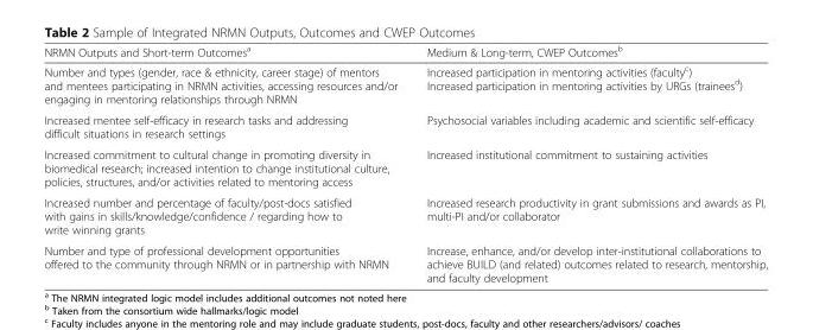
<table><thead><tr><td>NRMN Outputs and Short-term Outcomes<sup>a</sup></td><td>Medium &amp; Long-term, CWEP Outcomes<sup>b</sup></td></tr></thead><tbody><tr><td>Number and types (gender, race &amp; ethnicity, career stage) of mentors and mentees participating in NRMN activities, accessing resources and/or engaging in mentoring relationships through NRMN</td><td>Increased participation in mentoring activities (faculty<sup>c</sup>) Increased participation in mentoring activities by URGs (trainees<sup>d</sup>)</td></tr><tr><td>Increased mentee self-efficacy in research tasks and addressing difficult situations in research settings</td><td>Psychosocial variables including academic and scientific self-efficacy</td></tr><tr><td>Increased commitment to cultural change in promoting diversity in biomedical research; increased intention to change institutional culture, policies, structures, and/or activities related to mentoring access</td><td>Increased institutional commitment to sustaining activities</td></tr><tr><td>Increased number and percentage of faculty/post-docs satisfied with gains in skills/knowledge/confidence / regarding how to write winning grants</td><td>Increased research productivity in grant submissions and awards as PI, multi-PI and/or collaborator</td></tr><tr><td>Number and type of professional development opportunities offered to the community through NRMN or in partnership with NRMN</td><td>Increase, enhance, and/or develop inter-institutional collaborations to achieve BUILD (and related) outcomes related to research, mentorship, and faculty development</td></tr></tbody></table>